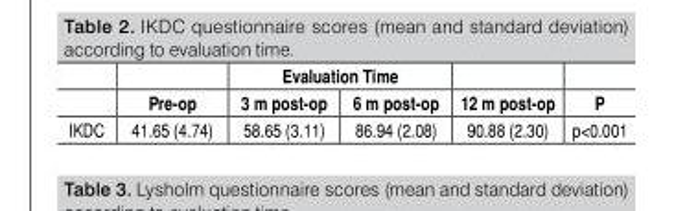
<table><thead><tr><td rowspan="2"></td><td rowspan="2">Pre-op</td><td colspan="2">Evaluation Time</td><td rowspan="2">12 m post-op</td><td rowspan="2">P</td></tr><tr><td>3 m post-op</td><td>6 m post-op</td></tr></thead><tbody><tr><td>IKDC</td><td>41.65 (4.74)</td><td>58.65 (3.11)</td><td>86.94 (2.08)</td><td>90.88 (2.30)</td><td>p&lt;0.001</td></tr></tbody></table>